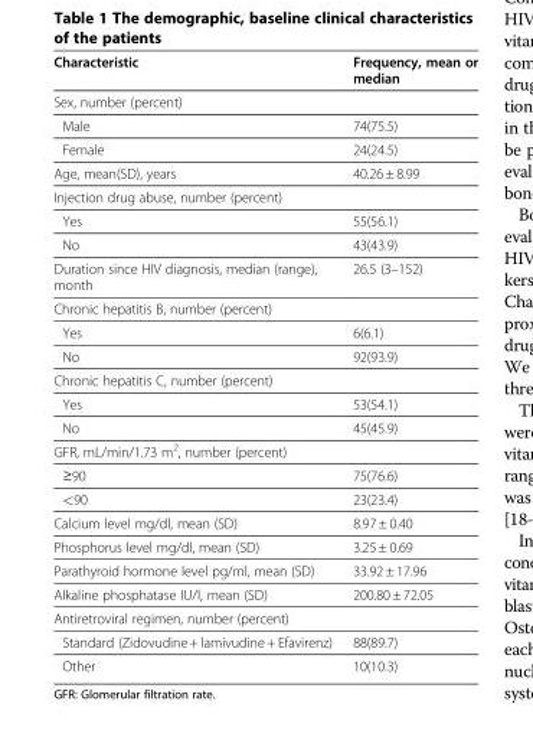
<table><thead><tr><td>Characteristic</td><td>Frequency, mean or median</td></tr></thead><tbody><tr><td colspan="2">Sex, number (percent)</td></tr><tr><td>Male</td><td>74(75.5)</td></tr><tr><td>Female</td><td>24(24.5)</td></tr><tr><td>Age, mean(SD), years</td><td>40.26 ± 8.99</td></tr><tr><td colspan="2">Injection drug abuse, number (percent)</td></tr><tr><td>Yes</td><td>55(56.1)</td></tr><tr><td>No</td><td>43(43.9)</td></tr><tr><td>Duration since HIV diagnosis, median (range), month</td><td>26.5 (3–152)</td></tr><tr><td colspan="2">Chronic hepatitis B, number (percent)</td></tr><tr><td>Yes</td><td>6(6.1)</td></tr><tr><td>No</td><td>92(93.9)</td></tr><tr><td colspan="2">Chronic hepatitis C, number (percent)</td></tr><tr><td>Yes</td><td>53(54.1)</td></tr><tr><td>No</td><td>45(45.9)</td></tr><tr><td colspan="2">GFR, mL/min/1.73 m<sup>2</sup>, number (percent)</td></tr><tr><td>≥90</td><td>75(76.6)</td></tr><tr><td>&lt;90</td><td>23(23.4)</td></tr><tr><td>Calcium level mg/dl, mean (SD)</td><td>8.97 ± 0.40</td></tr><tr><td>Phosphorus level mg/dl, mean (SD)</td><td>3.25 ± 0.69</td></tr><tr><td>Parathyroid hormone level pg/ml, mean (SD)</td><td>33.92 ± 17.96</td></tr><tr><td>Alkaline phosphatase IU/l, mean (SD)</td><td>200.80 ± 72.05</td></tr><tr><td colspan="2">Antiretroviral regimen, number (percent)</td></tr><tr><td>Standard (Zidovudine + lamivudine + Efavirenz)</td><td>88(89.7)</td></tr><tr><td>Other</td><td>10(10.3)</td></tr></tbody></table>